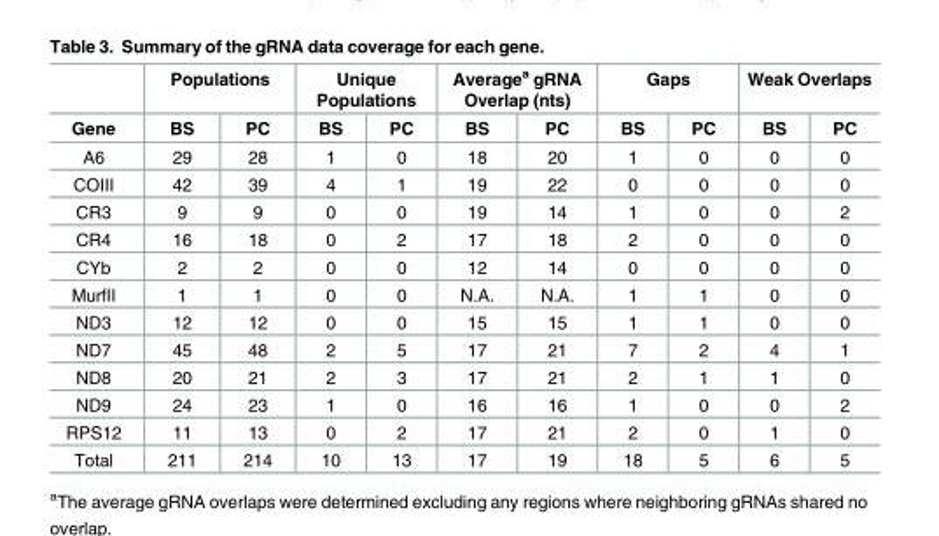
<table><thead><tr><td rowspan="2">Gene</td><td colspan="2">Populations</td><td colspan="2">Unique Populations</td><td colspan="2">Average<sup>a</sup> gRNA Overlap (nts)</td><td colspan="2">Gaps</td><td colspan="2">Weak Overlaps</td></tr><tr><td>BS</td><td>PC</td><td>BS</td><td>PC</td><td>BS</td><td>PC</td><td>BS</td><td>PC</td><td>BS</td><td>PC</td></tr></thead><tbody><tr><td>A6</td><td>29</td><td>28</td><td>1</td><td>0</td><td>18</td><td>20</td><td>1</td><td>0</td><td>0</td><td>0</td></tr><tr><td>COIII</td><td>42</td><td>39</td><td>4</td><td>1</td><td>19</td><td>22</td><td>0</td><td>0</td><td>0</td><td>0</td></tr><tr><td>CR3</td><td>9</td><td>9</td><td>0</td><td>0</td><td>19</td><td>14</td><td>1</td><td>0</td><td>0</td><td>2</td></tr><tr><td>CR4</td><td>16</td><td>18</td><td>0</td><td>2</td><td>17</td><td>18</td><td>2</td><td>0</td><td>0</td><td>0</td></tr><tr><td>CYb</td><td>2</td><td>2</td><td>0</td><td>0</td><td>12</td><td>14</td><td>0</td><td>0</td><td>0</td><td>0</td></tr><tr><td>MurfII</td><td>1</td><td>1</td><td>0</td><td>0</td><td>N.A.</td><td>N.A.</td><td>1</td><td>1</td><td>0</td><td>0</td></tr><tr><td>ND3</td><td>12</td><td>12</td><td>0</td><td>0</td><td>15</td><td>15</td><td>1</td><td>1</td><td>0</td><td>0</td></tr><tr><td>ND7</td><td>45</td><td>48</td><td>2</td><td>5</td><td>17</td><td>21</td><td>7</td><td>2</td><td>4</td><td>1</td></tr><tr><td>ND8</td><td>20</td><td>21</td><td>2</td><td>3</td><td>17</td><td>21</td><td>2</td><td>1</td><td>1</td><td>0</td></tr><tr><td>ND9</td><td>24</td><td>23</td><td>1</td><td>0</td><td>16</td><td>16</td><td>1</td><td>0</td><td>0</td><td>2</td></tr><tr><td>RPS12</td><td>11</td><td>13</td><td>0</td><td>2</td><td>17</td><td>21</td><td>2</td><td>0</td><td>1</td><td>0</td></tr><tr><td>Total</td><td>211</td><td>214</td><td>10</td><td>13</td><td>17</td><td>19</td><td>18</td><td>5</td><td>6</td><td>5</td></tr></tbody></table>